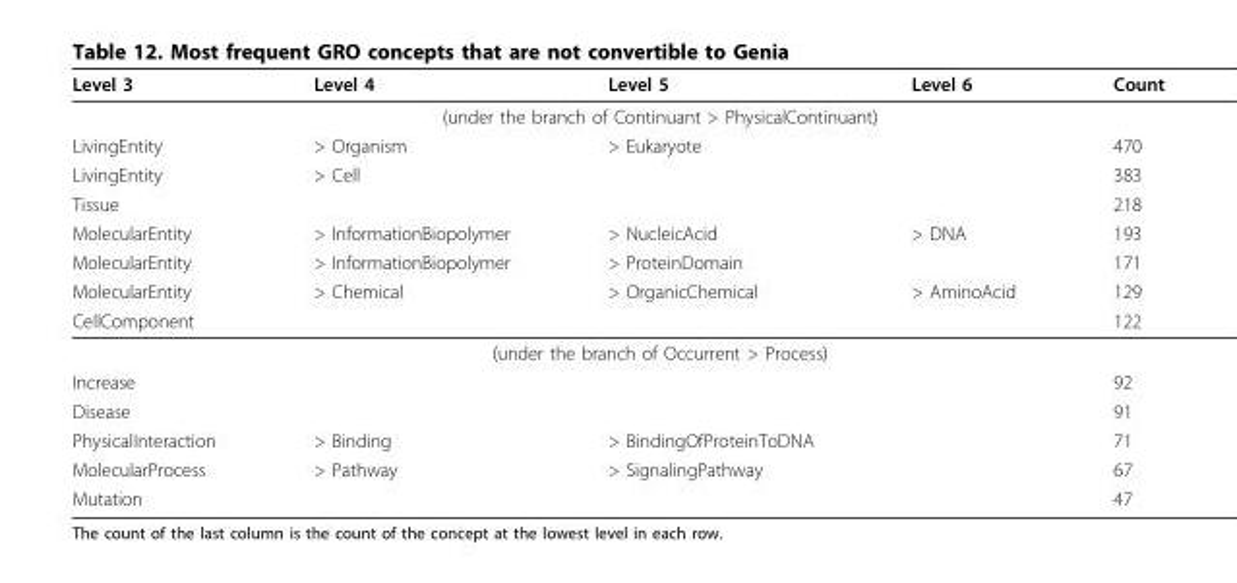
<table><thead><tr><td>Level 3</td><td>Level 4</td><td>Level 5</td><td>Level 6</td><td>Count</td></tr></thead><tbody><tr><td colspan="5">(under the branch of Continuant &gt; PhysicalContinuant)</td></tr><tr><td>LivingEntity</td><td>&gt; Organism</td><td>&gt; Eukaryote</td><td></td><td>470</td></tr><tr><td>LivingEntity</td><td>&gt; Cell</td><td></td><td></td><td>383</td></tr><tr><td>Tissue</td><td></td><td></td><td></td><td>218</td></tr><tr><td>MolecularEntity</td><td>&gt; InformationBiopolymer</td><td>&gt; NucleicAcid</td><td>&gt; DNA</td><td>193</td></tr><tr><td>MolecularEntity</td><td>&gt; InformationBiopolymer</td><td>&gt; ProteinDomain</td><td></td><td>171</td></tr><tr><td>MolecularEntity</td><td>&gt; Chemical</td><td>&gt; OrganicChemical</td><td>&gt; AminoAcid</td><td>129</td></tr><tr><td>CellComponent</td><td></td><td></td><td></td><td>122</td></tr><tr><td colspan="5">(under the branch of Occurrent &gt; Process)</td></tr><tr><td>Increase</td><td></td><td></td><td></td><td>92</td></tr><tr><td>Disease</td><td></td><td></td><td></td><td>91</td></tr><tr><td>PhysicalInteraction</td><td>&gt; Binding</td><td>&gt; BindingOfProteinToDNA</td><td></td><td>71</td></tr><tr><td>MolecularProcess</td><td>&gt; Pathway</td><td>&gt; SignalingPathway</td><td></td><td>67</td></tr><tr><td>Mutation</td><td></td><td></td><td></td><td>47</td></tr></tbody></table>